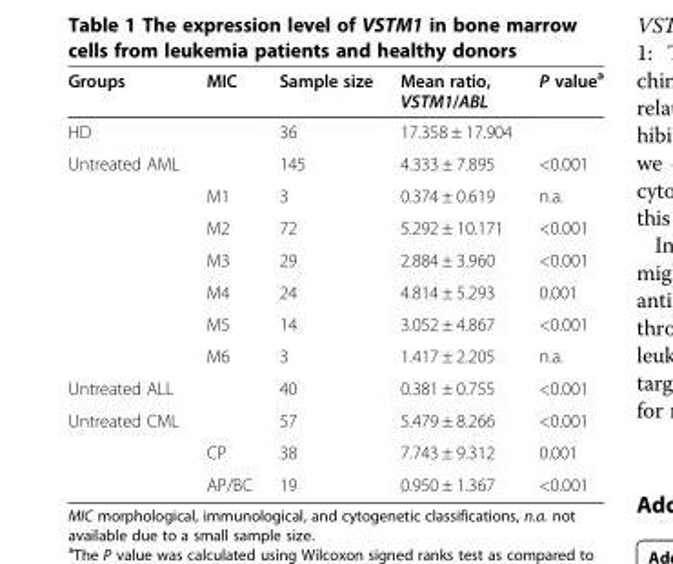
<table><thead><tr><td>Groups</td><td>MIC</td><td>Sample size</td><td>Mean ratio, VSTM1/ABL</td><td>P value<sup>a</sup></td></tr></thead><tbody><tr><td>HD</td><td></td><td>36</td><td>17.358 ± 17.904</td><td></td></tr><tr><td rowspan="7">Untreated AML</td><td></td><td>145</td><td>4.333 ± 7.895</td><td>&lt;0.001</td></tr><tr><td>M1</td><td>3</td><td>0.374 ± 0.619</td><td>n.a.</td></tr><tr><td>M2</td><td>72</td><td>5.292 ± 10.171</td><td>&lt;0.001</td></tr><tr><td>M3</td><td>29</td><td>2.884 ± 3.960</td><td>&lt;0.001</td></tr><tr><td>M4</td><td>24</td><td>4.814 ± 5.293</td><td>0.001</td></tr><tr><td>M5</td><td>14</td><td>3.052 ± 4.867</td><td>&lt;0.001</td></tr><tr><td>M6</td><td>3</td><td>1.417 ± 2.205</td><td>n.a.</td></tr><tr><td>Untreated ALL</td><td></td><td>40</td><td>0.381 ± 0.755</td><td>&lt;0.001</td></tr><tr><td rowspan="3">Untreated CML</td><td></td><td>57</td><td>5.479 ± 8.266</td><td>&lt;0.001</td></tr><tr><td>CP</td><td>38</td><td>7.743 ± 9.312</td><td>0.001</td></tr><tr><td>AP/BC</td><td>19</td><td>0.950 ± 1.367</td><td>&lt;0.001</td></tr></tbody></table>